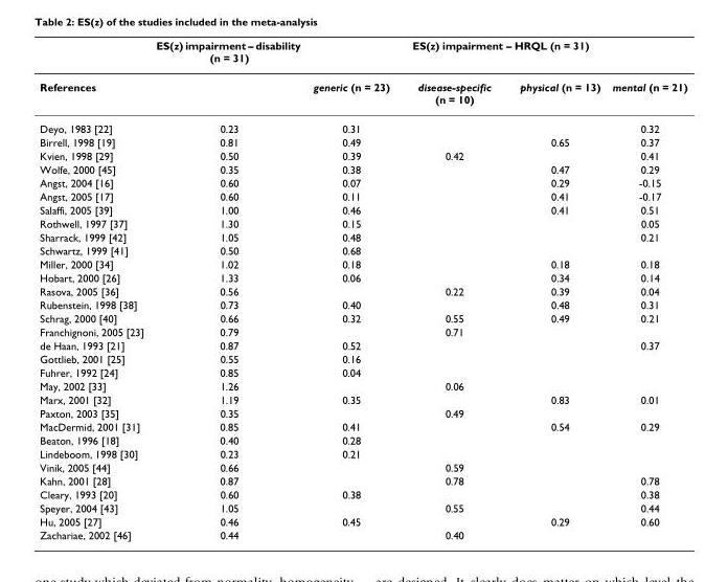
<table><thead><tr><td rowspan="2">References</td><td rowspan="2">ES(z) impairment – disability (n = 31)</td><td colspan="4">ES(z) impairment – HRQL (n = 31)</td></tr><tr><td>generic (n = 23)</td><td>disease-specific (n = 10)</td><td>physical (n = 13)</td><td>mental (n = 21)</td></tr></thead><tbody><tr><td>Deyo, 1983 [22]</td><td>0.23</td><td>0.31</td><td></td><td></td><td>0.32</td></tr><tr><td>Birrell, 1998 [19]</td><td>0.81</td><td>0.49</td><td></td><td>0.65</td><td>0.37</td></tr><tr><td>Kvien, 1998 [29]</td><td>0.50</td><td>0.39</td><td>0.42</td><td></td><td>0.41</td></tr><tr><td>Wolfe, 2000 [45]</td><td>0.35</td><td>0.38</td><td></td><td>0.47</td><td>0.29</td></tr><tr><td>Angst, 2004 [16]</td><td>0.60</td><td>0.07</td><td></td><td>0.29</td><td>-0.15</td></tr><tr><td>Angst, 2005 [17]</td><td>0.60</td><td>0.11</td><td></td><td>0.41</td><td>-0.17</td></tr><tr><td>Salaffi, 2005 [39]</td><td>1.00</td><td>0.46</td><td></td><td>0.41</td><td>0.51</td></tr><tr><td>Rothwell, 1997 [37]</td><td>1.30</td><td>0.15</td><td></td><td></td><td>0.05</td></tr><tr><td>Sharrack, 1999 [42]</td><td>1.05</td><td>0.48</td><td></td><td></td><td>0.21</td></tr><tr><td>Schwartz, 1999 [41]</td><td>0.50</td><td>0.68</td><td></td><td></td><td></td></tr><tr><td>Miller, 2000 [34]</td><td>1.02</td><td>0.18</td><td></td><td>0.18</td><td>0.18</td></tr><tr><td>Hobart, 2000 [26]</td><td>1.33</td><td>0.06</td><td></td><td>0.34</td><td>0.14</td></tr><tr><td>Rasova, 2005 [36]</td><td>0.56</td><td></td><td>0.22</td><td>0.39</td><td>0.04</td></tr><tr><td>Rubenstein, 1998 [38]</td><td>0.73</td><td>0.40</td><td></td><td>0.48</td><td>0.31</td></tr><tr><td>Schrag, 2000 [40]</td><td>0.66</td><td>0.32</td><td>0.55</td><td>0.49</td><td>0.21</td></tr><tr><td>Franchignoni, 2005 [23]</td><td>0.79</td><td></td><td>0.71</td><td></td><td></td></tr><tr><td>de Haan, 1993 [21]</td><td>0.87</td><td>0.52</td><td></td><td></td><td>0.37</td></tr><tr><td>Gottlieb, 2001 [25]</td><td>0.55</td><td>0.16</td><td></td><td></td><td></td></tr><tr><td>Fuhrer, 1992 [24]</td><td>0.85</td><td>0.04</td><td></td><td></td><td></td></tr><tr><td>May, 2002 [33]</td><td>1.26</td><td></td><td>0.06</td><td></td><td></td></tr><tr><td>Marx, 2001 [32]</td><td>1.19</td><td>0.35</td><td></td><td>0.83</td><td>0.01</td></tr><tr><td>Paxton, 2003 [35]</td><td>0.35</td><td></td><td>0.49</td><td></td><td></td></tr><tr><td>MacDermid, 2001 [31]</td><td>0.85</td><td>0.41</td><td></td><td>0.54</td><td>0.29</td></tr><tr><td>Beaton, 1996 [18]</td><td>0.40</td><td>0.28</td><td></td><td></td><td></td></tr><tr><td>Lindeboom, 1998 [30]</td><td>0.23</td><td>0.21</td><td></td><td></td><td></td></tr><tr><td>Vinik, 2005 [44]</td><td>0.66</td><td></td><td>0.59</td><td></td><td></td></tr><tr><td>Kahn, 2001 [28]</td><td>0.87</td><td></td><td>0.78</td><td></td><td>0.78</td></tr><tr><td>Cleary, 1993 [20]</td><td>0.60</td><td>0.38</td><td></td><td></td><td>0.38</td></tr><tr><td>Speyer, 2004 [43]</td><td>1.05</td><td></td><td>0.55</td><td></td><td>0.44</td></tr><tr><td>Hu, 2005 [27]</td><td>0.46</td><td>0.45</td><td></td><td>0.29</td><td>0.60</td></tr><tr><td>Zachariae, 2002 [46]</td><td>0.44</td><td></td><td>0.40</td><td></td><td></td></tr></tbody></table>